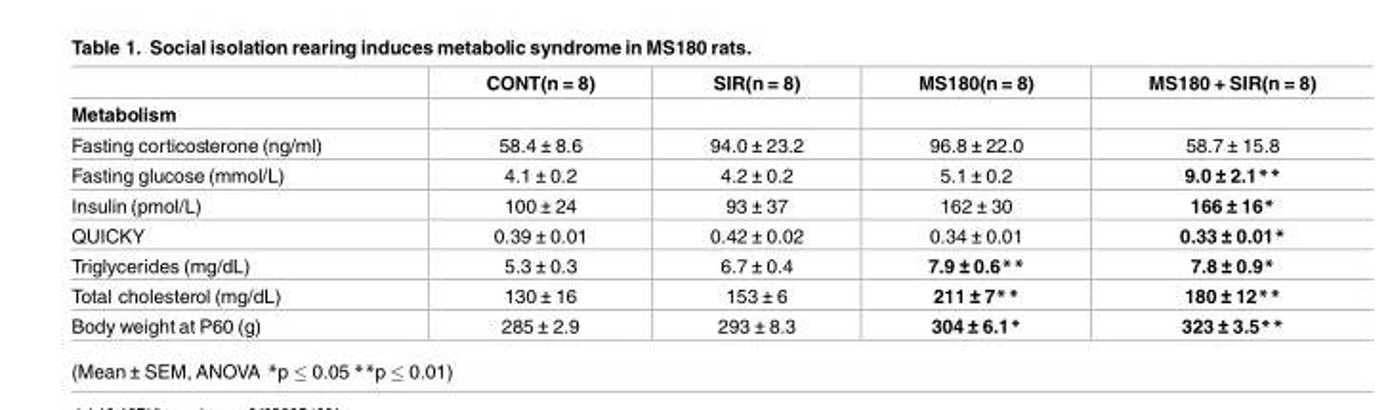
<table><thead><tr><td rowspan="2">Metabolism</td><td rowspan="2">CONT(n = 8)</td><td rowspan="2">SIR(n = 8)</td><td rowspan="2">MS180(n = 8)</td><td rowspan="2">MS180 + SIR(n = 8)</td></tr><tr></tr></thead><tbody><tr><td>Fasting corticosterone (ng/ml)</td><td>58.4 ± 8.6</td><td>94.0 ± 23.2</td><td>96.8 ± 22.0</td><td>58.7 ± 15.8</td></tr><tr><td>Fasting glucose (mmol/L)</td><td>4.1 ± 0.2</td><td>4.2 ± 0.2</td><td>5.1 ± 0.2</td><td>9.0 ± 2.1**</td></tr><tr><td>Insulin (pmol/L)</td><td>100 ± 24</td><td>93 ± 37</td><td>162 ± 30</td><td>166 ± 16*</td></tr><tr><td>QUICKY</td><td>0.39 ± 0.01</td><td>0.42 ± 0.02</td><td>0.34 ± 0.01</td><td>0.33 ± 0.01*</td></tr><tr><td>Triglycerides (mg/dL)</td><td>5.3 ± 0.3</td><td>6.7 ± 0.4</td><td>7.9 ± 0.6**</td><td>7.8 ± 0.9*</td></tr><tr><td>Total cholesterol (mg/dL)</td><td>130 ± 16</td><td>153 ± 6</td><td>211 ± 7**</td><td>180 ± 12**</td></tr><tr><td>Body weight at P60 (g)</td><td>285 ± 2.9</td><td>293 ± 8.3</td><td>304 ± 6.1*</td><td>323 ± 3.5**</td></tr></tbody></table>